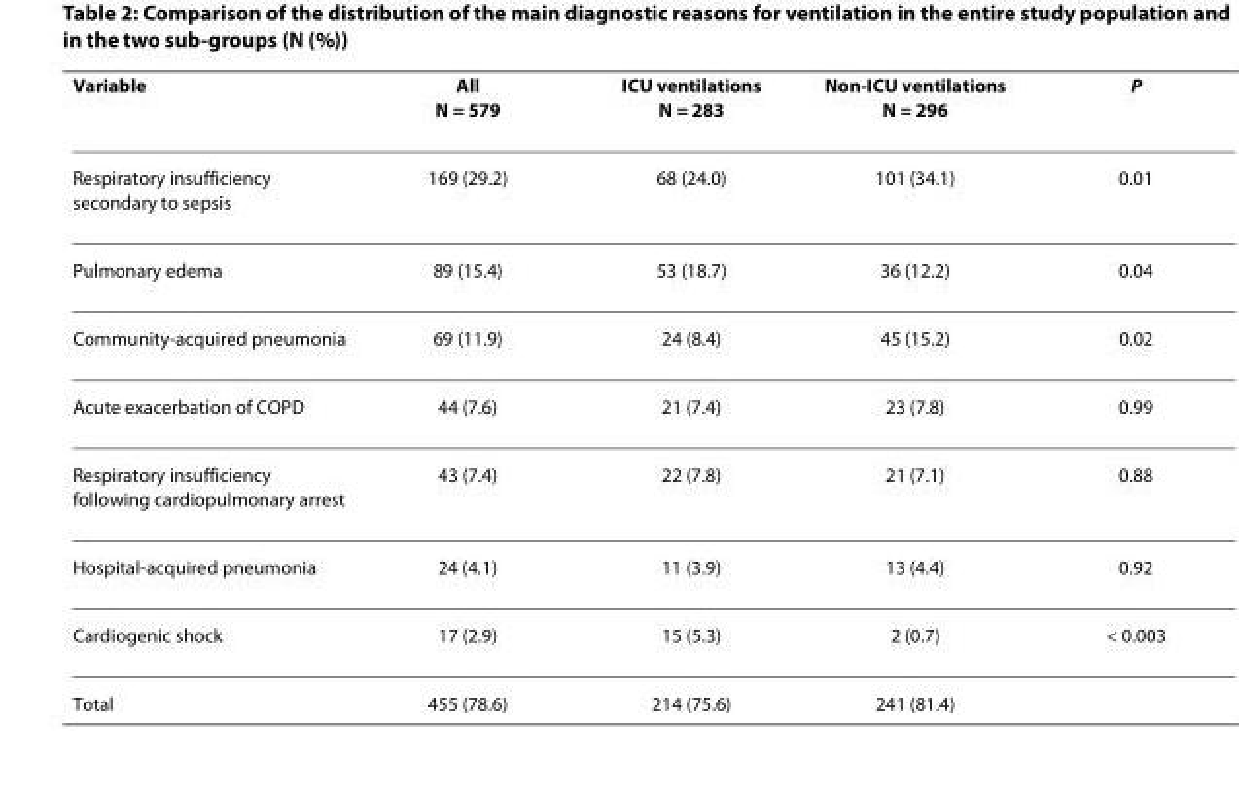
<table><thead><tr><td>Variable</td><td>All N = 579</td><td>ICU ventilations N = 283</td><td>Non-ICU ventilations N = 296</td><td>P</td></tr></thead><tbody><tr><td>Respiratory insufficiency secondary to sepsis</td><td>169 (29.2)</td><td>68 (24.0)</td><td>101 (34.1)</td><td>0.01</td></tr><tr><td>Pulmonary edema</td><td>89 (15.4)</td><td>53 (18.7)</td><td>36 (12.2)</td><td>0.04</td></tr><tr><td>Community-acquired pneumonia</td><td>69 (11.9)</td><td>24 (8.4)</td><td>45 (15.2)</td><td>0.02</td></tr><tr><td>Acute exacerbation of COPD</td><td>44 (7.6)</td><td>21 (7.4)</td><td>23 (7.8)</td><td>0.99</td></tr><tr><td>Respiratory insufficiency following cardiopulmonary arrest</td><td>43 (7.4)</td><td>22 (7.8)</td><td>21 (7.1)</td><td>0.88</td></tr><tr><td>Hospital-acquired pneumonia</td><td>24 (4.1)</td><td>11 (3.9)</td><td>13 (4.4)</td><td>0.92</td></tr><tr><td>Cardiogenic shock</td><td>17 (2.9)</td><td>15 (5.3)</td><td>2 (0.7)</td><td>&lt; 0.003</td></tr><tr><td>Total</td><td>455 (78.6)</td><td>214 (75.6)</td><td>241 (81.4)</td><td></td></tr></tbody></table>